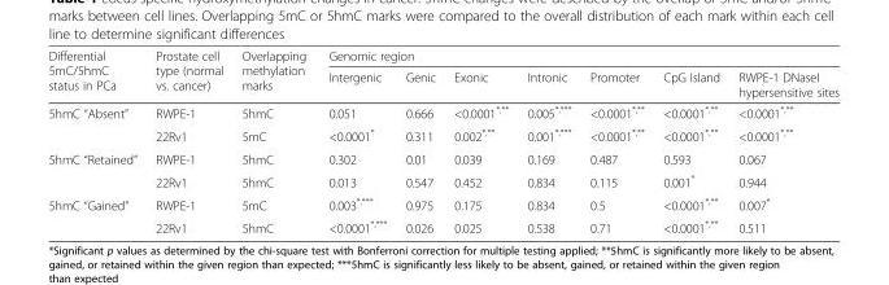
<table><thead><tr><td rowspan="2">Differential 5mC/5hmC status in PCa</td><td rowspan="2">Prostate cell type (normal vs. cancer)</td><td rowspan="2">Overlapping methylation marks</td><td colspan="7">Genomic region</td></tr><tr><td>Intergenic</td><td>Genic</td><td>Exonic</td><td>Intronic</td><td>Promoter</td><td>CpG Island</td><td>RWPE-1 DNaseI hypersensitive sites</td></tr></thead><tbody><tr><td rowspan="2">5hmC “Absent”</td><td>RWPE-1</td><td>5hmC</td><td>0.051</td><td>0.666</td><td>&lt;0.0001<sup>*,**</sup></td><td>0.005<sup>*,***</sup></td><td>&lt;0.0001<sup>*,**</sup></td><td>&lt;0.0001<sup>*,**</sup></td><td>&lt;0.0001<sup>*,**</sup></td></tr><tr><td>22Rv1</td><td>5mC</td><td>&lt;0.0001*</td><td>0.311</td><td>0.002<sup>*,**</sup></td><td>0.001<sup>*,***</sup></td><td>&lt;0.0001<sup>*,**</sup></td><td>&lt;0.0001<sup>*,**</sup></td><td>&lt;0.0001<sup>*,**</sup></td></tr><tr><td rowspan="2">5hmC “Retained”</td><td>RWPE-1</td><td>5hmC</td><td>0.302</td><td>0.01</td><td>0.039</td><td>0.169</td><td>0.487</td><td>0.593</td><td>0.067</td></tr><tr><td>22Rv1</td><td>5hmC</td><td>0.013</td><td>0.547</td><td>0.452</td><td>0.834</td><td>0.115</td><td>0.001*</td><td>0.944</td></tr><tr><td rowspan="2">5hmC “Gained”</td><td>RWPE-1</td><td>5mC</td><td>0.003<sup>*,***</sup></td><td>0.975</td><td>0.175</td><td>0.834</td><td>0.5</td><td>&lt;0.0001<sup>*,**</sup></td><td>0.007*</td></tr><tr><td>22Rv1</td><td>5hmC</td><td>&lt;0.0001<sup>*,***</sup></td><td>0.026</td><td>0.025</td><td>0.538</td><td>0.71</td><td>&lt;0.0001<sup>*,**</sup></td><td>0.511</td></tr></tbody></table>